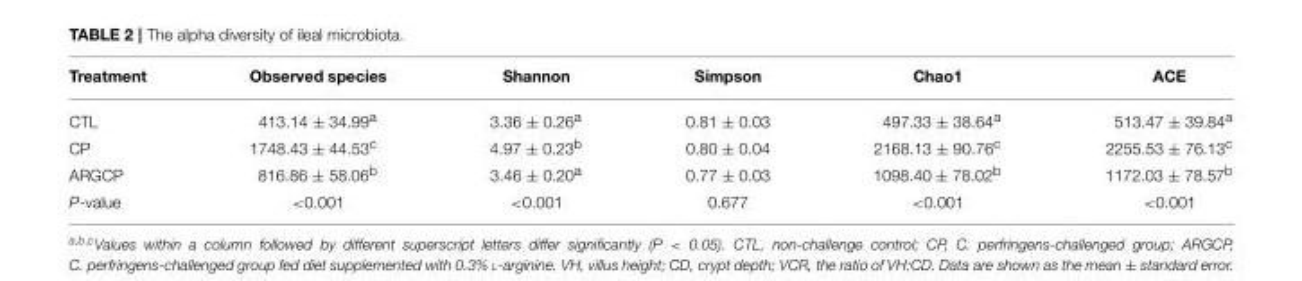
<table><thead><tr><td>Treatment</td><td>Observed species</td><td>Shannon</td><td>Simpson</td><td>Chao1</td><td>ACE</td></tr></thead><tbody><tr><td>CTL</td><td>413.14 ± 34.99<sup>a</sup></td><td>3.36 ± 0.26<sup>a</sup></td><td>0.81 ± 0.03</td><td>497.33 ± 38.64<sup>a</sup></td><td>513.47 ± 39.84<sup>a</sup></td></tr><tr><td>CP</td><td>1748.43 ± 44.53<sup>c</sup></td><td>4.97 ± 0.23<sup>b</sup></td><td>0.80 ± 0.04</td><td>2168.13 ± 90.76<sup>c</sup></td><td>2255.53 ± 76.13<sup>c</sup></td></tr><tr><td>ARGCP</td><td>816.86 ± 58.06<sup>b</sup></td><td>3.46 ± 0.20<sup>a</sup></td><td>0.77 ± 0.03</td><td>1098.40 ± 78.02<sup>b</sup></td><td>1172.03 ± 78.57<sup>b</sup></td></tr><tr><td>P-value</td><td>&lt;0.001</td><td>&lt;0.001</td><td>0.677</td><td>&lt;0.001</td><td>&lt;0.001</td></tr></tbody></table>